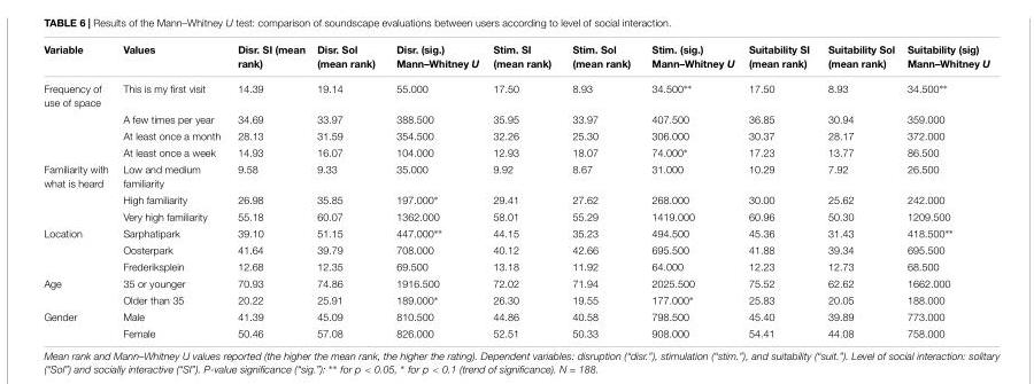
<table><thead><tr><td>Variable</td><td>Values</td><td>Disr. SI (mean rank)</td><td>Disr. Sol (mean rank)</td><td>Disr. (sig.) Mann–Whitney U</td><td>Stim. SI (mean rank)</td><td>Stim. Sol (mean rank)</td><td>Stim. (sig.) Mann–Whitney U</td><td>Suitability SI (mean rank)</td><td>Suitability Sol (mean rank)</td><td>Suitability (sig) Mann–Whitney U</td></tr></thead><tbody><tr><td rowspan="4">Frequency of use of space</td><td>This is my first visit</td><td>14.39</td><td>19.14</td><td>55.000</td><td>17.50</td><td>8.93</td><td>34.500∗∗</td><td>17.50</td><td>8.93</td><td>34.500∗∗</td></tr><tr><td>A few times per year</td><td>34.69</td><td>33.97</td><td>388.500</td><td>35.95</td><td>33.97</td><td>407.500</td><td>36.85</td><td>30.94</td><td>359.000</td></tr><tr><td>At least once a month</td><td>28.13</td><td>31.59</td><td>354.500</td><td>32.26</td><td>25.30</td><td>306.000</td><td>30.37</td><td>28.17</td><td>372.000</td></tr><tr><td>At least once a week</td><td>14.93</td><td>16.07</td><td>104.000</td><td>12.93</td><td>18.07</td><td>74.000∗</td><td>17.23</td><td>13.77</td><td>86.500</td></tr><tr><td rowspan="3">Familiarity with what is heard</td><td>Low and medium familiarity</td><td>9.58</td><td>9.33</td><td>35.000</td><td>9.92</td><td>8.67</td><td>31.000</td><td>10.29</td><td>7.92</td><td>26.500</td></tr><tr><td>High familiarity</td><td>26.98</td><td>35.85</td><td>197.000∗</td><td>29.41</td><td>27.62</td><td>268.000</td><td>30.00</td><td>25.62</td><td>242.000</td></tr><tr><td>Very high familiarity</td><td>55.18</td><td>60.07</td><td>1362.000</td><td>58.01</td><td>55.29</td><td>1419.000</td><td>60.96</td><td>50.30</td><td>1209.500</td></tr><tr><td rowspan="3">Location</td><td>Sarphatipark</td><td>39.10</td><td>51.15</td><td>447.000∗∗</td><td>44.15</td><td>35.23</td><td>494.500</td><td>45.36</td><td>31.43</td><td>418.500∗∗</td></tr><tr><td>Oosterpark</td><td>41.64</td><td>39.79</td><td>708.000</td><td>40.12</td><td>42.66</td><td>695.500</td><td>41.88</td><td>39.34</td><td>695.500</td></tr><tr><td>Frederiksplein</td><td>12.68</td><td>12.35</td><td>69.500</td><td>13.18</td><td>11.92</td><td>64.000</td><td>12.23</td><td>12.73</td><td>68.500</td></tr><tr><td rowspan="2">Age</td><td>35 or younger</td><td>70.93</td><td>74.86</td><td>1916.500</td><td>72.02</td><td>71.94</td><td>2025.500</td><td>75.52</td><td>62.62</td><td>1662.000</td></tr><tr><td>Older than 35</td><td>20.22</td><td>25.91</td><td>189.000∗</td><td>26.30</td><td>19.55</td><td>177.000∗</td><td>25.83</td><td>20.05</td><td>188.000</td></tr><tr><td rowspan="2">Gender</td><td>Male</td><td>41.39</td><td>45.09</td><td>810.500</td><td>44.86</td><td>40.58</td><td>798.500</td><td>45.40</td><td>39.89</td><td>773.000</td></tr><tr><td>Female</td><td>50.46</td><td>57.08</td><td>826.000</td><td>52.51</td><td>50.33</td><td>908.000</td><td>54.41</td><td>44.08</td><td>758.000</td></tr></tbody></table>